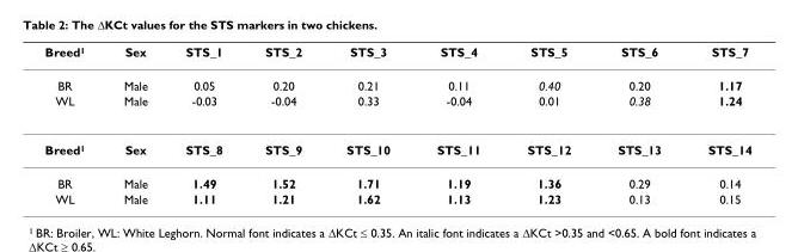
<table><thead><tr><td>Breed<sup>1</sup></td><td>Sex</td><td>STS_1</td><td>STS_2</td><td>STS_3</td><td>STS_4</td><td>STS_5</td><td>STS_6</td><td>STS_7</td></tr></thead><tbody><tr><td>BR</td><td>Male</td><td>0.05</td><td>0.20</td><td>0.21</td><td>0.11</td><td>0.40</td><td>0.20</td><td>1.17</td></tr><tr><td>WL</td><td>Male</td><td>-0.03</td><td>-0.04</td><td>0.33</td><td>-0.04</td><td>0.01</td><td>0.38</td><td>1.24</td></tr><tr><td>Breed<sup>1</sup></td><td>Sex</td><td>STS_8</td><td>STS_9</td><td>STS_10</td><td>STS_11</td><td>STS_12</td><td>STS_13</td><td>STS_14</td></tr><tr><td>BR</td><td>Male</td><td>1.49</td><td>1.52</td><td>1.71</td><td>1.19</td><td>1.36</td><td>0.29</td><td>0.14</td></tr><tr><td>WL</td><td>Male</td><td>1.11</td><td>1.21</td><td>1.62</td><td>1.13</td><td>1.23</td><td>0.13</td><td>0.15</td></tr></tbody></table>